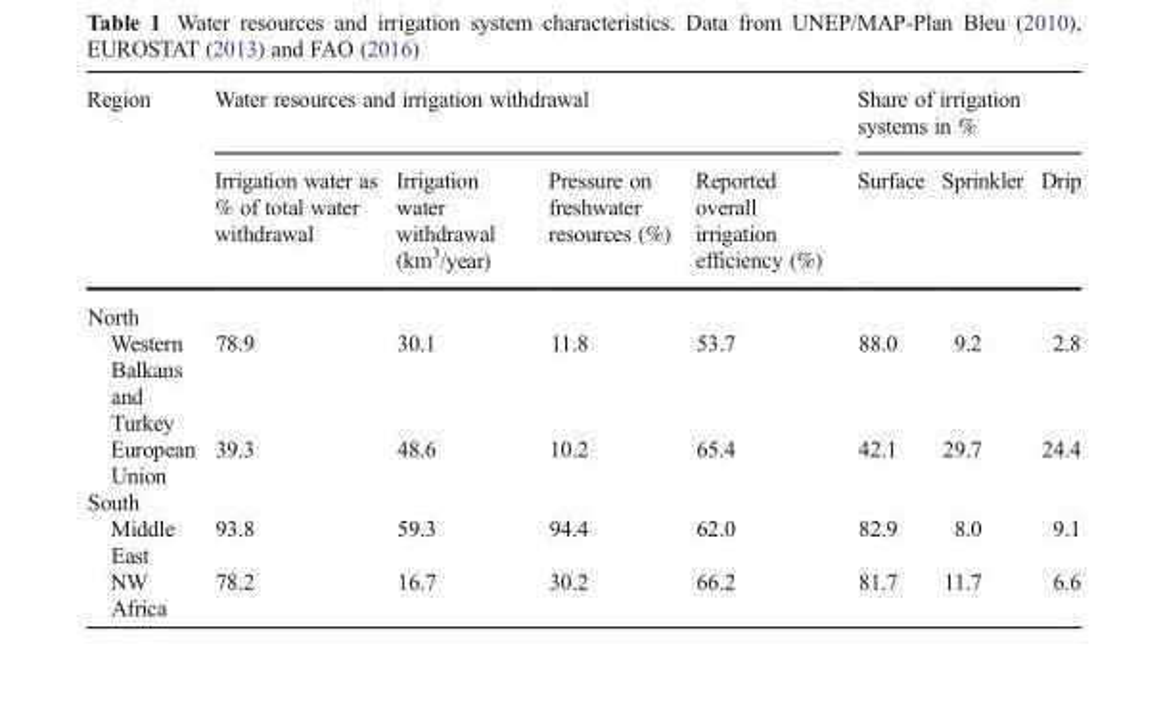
<table><thead><tr><td rowspan="2">Region</td><td colspan="4">Water resources and irrigation withdrawal</td><td colspan="3">Share of irrigation systems in %</td></tr><tr><td>Irrigation water as % of total water withdrawal</td><td>Irrigation water withdrawal (km<sup>3</sup>/year)</td><td>Pressure on freshwater resources (%)</td><td>Reported overall irrigation efficiency (%)</td><td>Surface</td><td>Sprinkler</td><td>Drip</td></tr></thead><tbody><tr><td colspan="8">North</td></tr><tr><td>Western Balkans and Turkey</td><td>78.9</td><td>30.1</td><td>11.8</td><td>53.7</td><td>88.0</td><td>9.2</td><td>2.8</td></tr><tr><td>European Union</td><td>39.3</td><td>48.6</td><td>10.2</td><td>65.4</td><td>42.1</td><td>29.7</td><td>24.4</td></tr><tr><td colspan="8">South</td></tr><tr><td>Middle East</td><td>93.8</td><td>59.3</td><td>94.4</td><td>62.0</td><td>82.9</td><td>8.0</td><td>9.1</td></tr><tr><td>NW Africa</td><td>78.2</td><td>16.7</td><td>30.2</td><td>66.2</td><td>81.7</td><td>11.7</td><td>6.6</td></tr></tbody></table>